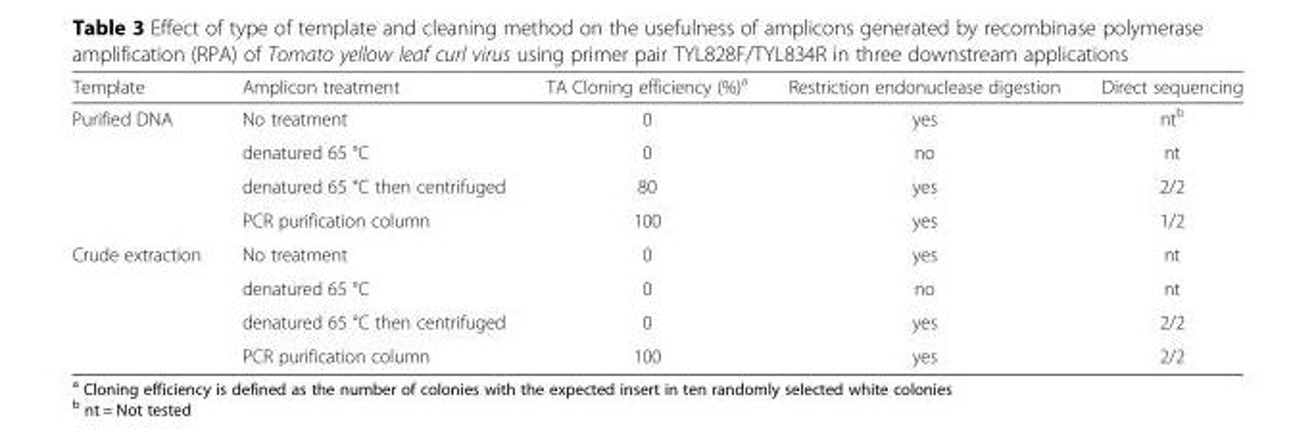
<table><thead><tr><td>Template</td><td>Amplicon treatment</td><td>TA Cloning efficiency (%)<sup>a</sup></td><td>Restriction endonuclease digestion</td><td>Direct sequencing</td></tr></thead><tbody><tr><td rowspan="4">Purified DNA</td><td>No treatment</td><td>0</td><td>yes</td><td>nt<sup>b</sup></td></tr><tr><td>denatured 65 °C</td><td>0</td><td>no</td><td>nt</td></tr><tr><td>denatured 65 °C then centrifuged</td><td>80</td><td>yes</td><td>2/2</td></tr><tr><td>PCR purification column</td><td>100</td><td>yes</td><td>1/2</td></tr><tr><td rowspan="4">Crude extraction</td><td>No treatment</td><td>0</td><td>yes</td><td>nt</td></tr><tr><td>denatured 65 °C</td><td>0</td><td>no</td><td>nt</td></tr><tr><td>denatured 65 °C then centrifuged</td><td>0</td><td>yes</td><td>2/2</td></tr><tr><td>PCR purification column</td><td>100</td><td>yes</td><td>2/2</td></tr></tbody></table>